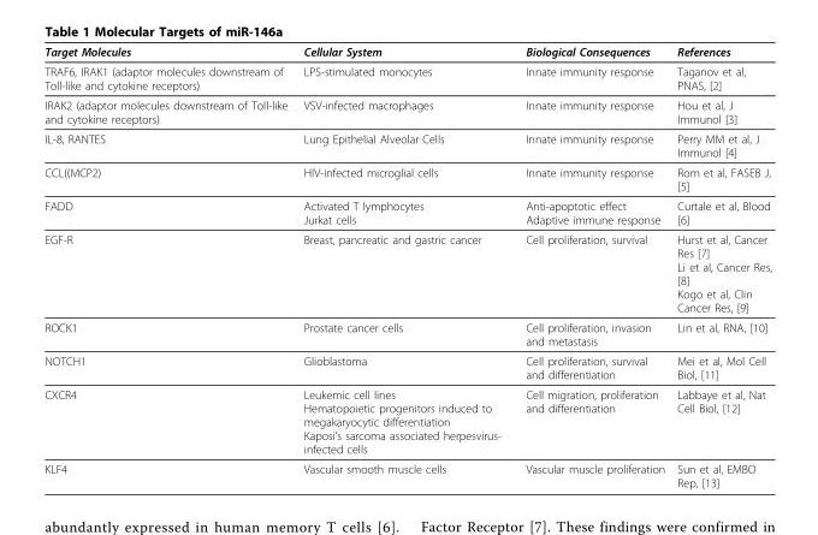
<table><thead><tr><td>Target Molecules</td><td>Cellular System</td><td>Biological Consequences</td><td>References</td></tr></thead><tbody><tr><td>TRAF6, IRAK1 (adaptor molecules downstream of Toll-like and cytokine receptors)</td><td>LPS-stimulated monocytes</td><td>Innate immunity response</td><td>Taganov et al, PNAS, [2]</td></tr><tr><td>IRAK2 (adaptor molecules downstream of Toll-like and cytokine receptors)</td><td>VSV-infected macrophages</td><td>Innate immunity response</td><td>Hou et al, J Immunol [3]</td></tr><tr><td>IL-8, RANTES</td><td>Lung Epithelial Alveolar Cells</td><td>Innate immunity response</td><td>Perry MM et al, J Immunol [4]</td></tr><tr><td>CCL((MCP2)</td><td>HIV-infected microglial cells</td><td>Innate immunity response</td><td>Rom et al, FASEB J, [5]</td></tr><tr><td>FADD</td><td>Activated T lymphocytes Jurkat cells</td><td>Anti-apoptotic effect Adaptive immune response</td><td>Curtale et al, Blood [6]</td></tr><tr><td>EGF-R</td><td>Breast, pancreatic and gastric cancer</td><td>Cell proliferation, survival</td><td>Hurst et al, Cancer Res [7] Li et al, Cancer Res, [8] Kogo et al, Clin Cancer Res, [9]</td></tr><tr><td>ROCK1</td><td>Prostate cancer cells</td><td>Cell proliferation, invasion and metastasis</td><td>Lin et al, RNA, [10]</td></tr><tr><td>NOTCH1</td><td>Glioblastoma</td><td>Cell proliferation, survival and differentiation</td><td>Mei et al, Mol Cell Biol, [11]</td></tr><tr><td>CXCR4</td><td>Leukemic cell lines Hematopoietic progenitors induced to megakaryocytic differentiation Kaposi’s sarcoma associated herpesvirus- infected cells</td><td>Cell migration, proliferation and differentiation</td><td>Labbaye et al, Nat Cell Biol, [12]</td></tr><tr><td>KLF4</td><td>Vascular smooth muscle cells</td><td>Vascular muscle proliferation</td><td>Sun et al, EMBO Rep, [13]</td></tr></tbody></table>